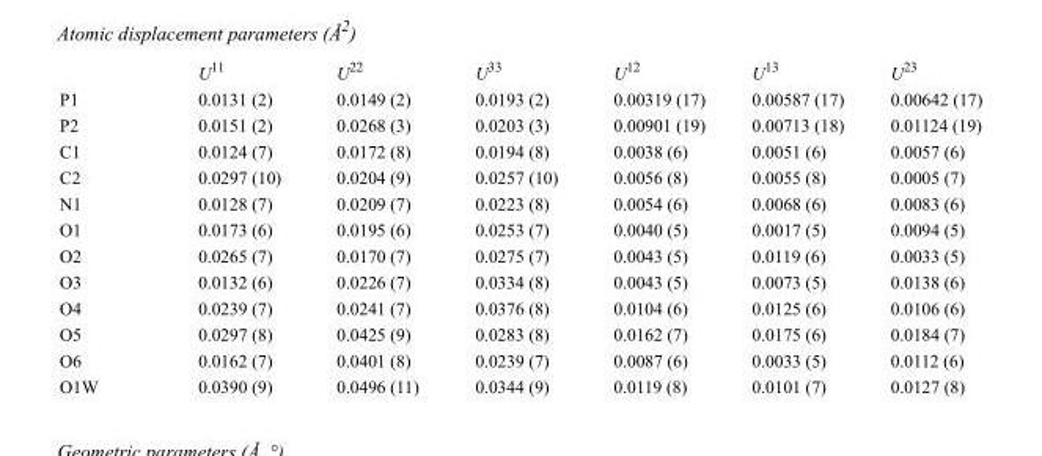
<table><thead><tr><td></td><td>U<sup>11</sup></td><td>U<sup>22</sup></td><td>U<sup>33</sup></td><td>U<sup>12</sup></td><td>U<sup>13</sup></td><td>U<sup>23</sup></td></tr></thead><tbody><tr><td>P1</td><td>0.0131 (2)</td><td>0.0149 (2)</td><td>0.0193 (2)</td><td>0.00319 (17)</td><td>0.00587 (17)</td><td>0.00642 (17)</td></tr><tr><td>P2</td><td>0.0151 (2)</td><td>0.0268 (3)</td><td>0.0203 (3)</td><td>0.00901 (19)</td><td>0.00713 (18)</td><td>0.01124 (19)</td></tr><tr><td>C1</td><td>0.0124 (7)</td><td>0.0172 (8)</td><td>0.0194 (8)</td><td>0.0038 (6)</td><td>0.0051 (6)</td><td>0.0057 (6)</td></tr><tr><td>C2</td><td>0.0297 (10)</td><td>0.0204 (9)</td><td>0.0257 (10)</td><td>0.0056 (8)</td><td>0.0055 (8)</td><td>0.0005 (7)</td></tr><tr><td>N1</td><td>0.0128 (7)</td><td>0.0209 (7)</td><td>0.0223 (8)</td><td>0.0054 (6)</td><td>0.0068 (6)</td><td>0.0083 (6)</td></tr><tr><td>O1</td><td>0.0173 (6)</td><td>0.0195 (6)</td><td>0.0253 (7)</td><td>0.0040 (5)</td><td>0.0017 (5)</td><td>0.0094 (5)</td></tr><tr><td>O2</td><td>0.0265 (7)</td><td>0.0170 (7)</td><td>0.0275 (7)</td><td>0.0043 (5)</td><td>0.0119 (6)</td><td>0.0033 (5)</td></tr><tr><td>O3</td><td>0.0132 (6)</td><td>0.0226 (7)</td><td>0.0334 (8)</td><td>0.0043 (5)</td><td>0.0073 (5)</td><td>0.0138 (6)</td></tr><tr><td>O4</td><td>0.0239 (7)</td><td>0.0241 (7)</td><td>0.0376 (8)</td><td>0.0104 (6)</td><td>0.0125 (6)</td><td>0.0106 (6)</td></tr><tr><td>O5</td><td>0.0297 (8)</td><td>0.0425 (9)</td><td>0.0283 (8)</td><td>0.0162 (7)</td><td>0.0175 (6)</td><td>0.0184 (7)</td></tr><tr><td>O6</td><td>0.0162 (7)</td><td>0.0401 (8)</td><td>0.0239 (7)</td><td>0.0087 (6)</td><td>0.0033 (5)</td><td>0.0112 (6)</td></tr><tr><td>O1W</td><td>0.0390 (9)</td><td>0.0496 (11)</td><td>0.0344 (9)</td><td>0.0119 (8)</td><td>0.0101 (7)</td><td>0.0127 (8)</td></tr></tbody></table>